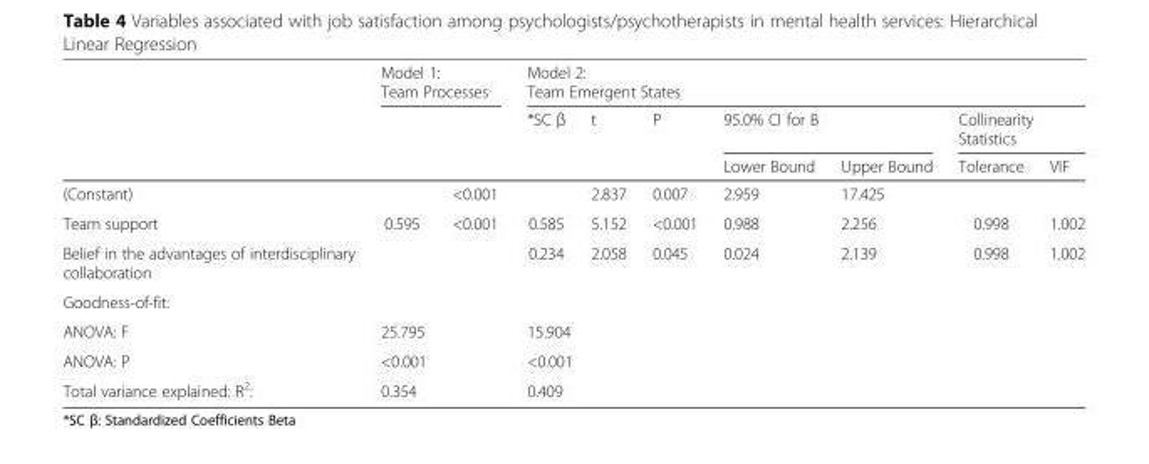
<table><thead><tr><td rowspan="3"></td><td colspan="2">Model 1: Team Processes</td><td colspan="7">Model 2: Team Emergent States</td></tr><tr><td rowspan="2"></td><td rowspan="2"></td><td rowspan="2">*SC β</td><td rowspan="2">t</td><td rowspan="2">P</td><td colspan="2">95.0% CI for B</td><td colspan="2">Collinearity Statistics</td></tr><tr><td>Lower Bound</td><td>Upper Bound</td><td>Tolerance</td><td>VIF</td></tr></thead><tbody><tr><td>(Constant)</td><td></td><td>&lt;0.001</td><td></td><td>2.837</td><td>0.007</td><td>2.959</td><td>17.425</td><td></td><td></td></tr><tr><td>Team support</td><td>0.595</td><td>&lt;0.001</td><td>0.585</td><td>5.152</td><td>&lt;0.001</td><td>0.988</td><td>2.256</td><td>0.998</td><td>1.002</td></tr><tr><td>Belief in the advantages of interdisciplinary collaboration</td><td></td><td></td><td>0.234</td><td>2.058</td><td>0.045</td><td>0.024</td><td>2.139</td><td>0.998</td><td>1.002</td></tr><tr><td colspan="10">Goodness-of-fit:</td></tr><tr><td>ANOVA: F</td><td colspan="2">25.795</td><td colspan="7">15.904</td></tr><tr><td>ANOVA: P</td><td colspan="2">&lt;0.001</td><td colspan="7">&lt;0.001</td></tr><tr><td>Total variance explained: R<sup>2</sup>:</td><td colspan="2">0.354</td><td colspan="7">0.409</td></tr></tbody></table>